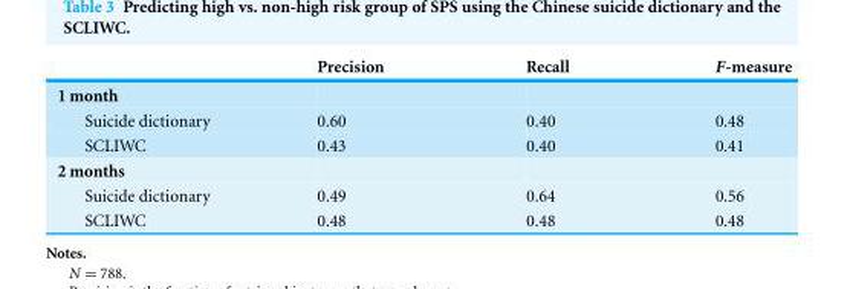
<table><thead><tr><td></td><td>Precision</td><td>Recall</td><td>F-measure</td></tr></thead><tbody><tr><td colspan="4">1 month</td></tr><tr><td>Suicide dictionary</td><td>0.60</td><td>0.40</td><td>0.48</td></tr><tr><td>SCLIWC</td><td>0.43</td><td>0.40</td><td>0.41</td></tr><tr><td colspan="4">2 months</td></tr><tr><td>Suicide dictionary</td><td>0.49</td><td>0.64</td><td>0.56</td></tr><tr><td>SCLIWC</td><td>0.48</td><td>0.48</td><td>0.48</td></tr></tbody></table>